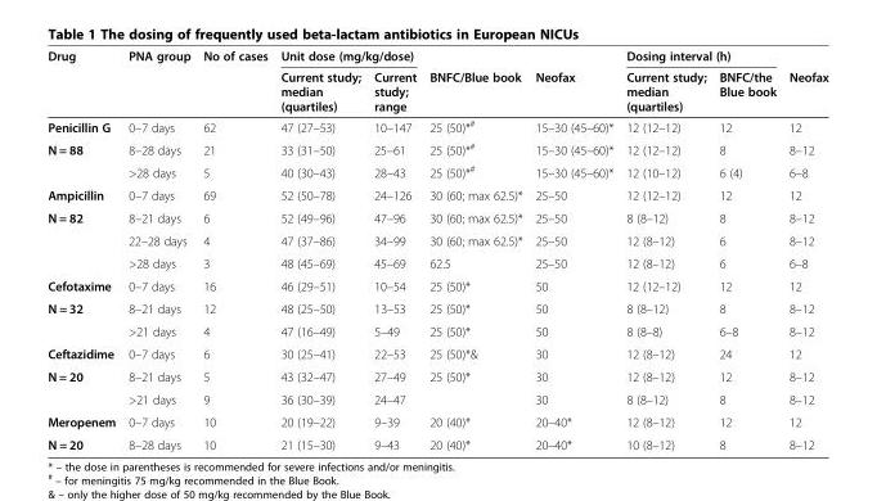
<table><thead><tr><td rowspan="2">Drug</td><td rowspan="2">PNA group</td><td rowspan="2">No of cases</td><td colspan="2">Unit dose (mg/kg/dose)</td><td rowspan="2">BNFC/Blue book</td><td rowspan="2">Neofax</td><td colspan="2">Dosing interval (h)</td><td rowspan="2">Neofax</td></tr><tr><td>Current study; median (quartiles)</td><td>Current study; range</td><td>Current study; median (quartiles)</td><td>BNFC/the Blue book</td></tr></thead><tbody><tr><td>Penicillin G</td><td>0–7 days</td><td>62</td><td>47 (27–53)</td><td>10–147</td><td>25 (50)*<sup>#</sup></td><td>15–30 (45–60)*</td><td>12 (12–12)</td><td>12</td><td>12</td></tr><tr><td rowspan="2">N = 88</td><td>8–28 days</td><td>21</td><td>33 (31–50)</td><td>25–61</td><td>25 (50)*<sup>#</sup></td><td>15–30 (45–60)*</td><td>12 (12–12)</td><td>8</td><td>8–12</td></tr><tr><td>&gt;28 days</td><td>5</td><td>40 (30–43)</td><td>28–43</td><td>25 (50)*<sup>#</sup></td><td>15–30 (45–60)*</td><td>12 (10–12)</td><td>6 (4)</td><td>6–8</td></tr><tr><td>Ampicillin</td><td>0–7 days</td><td>69</td><td>52 (50–78)</td><td>24–126</td><td>30 (60; max 62.5)*</td><td>25–50</td><td>12 (12–12)</td><td>12</td><td>12</td></tr><tr><td rowspan="3">N = 82</td><td>8–21 days</td><td>6</td><td>52 (49–96)</td><td>47–96</td><td>30 (60; max 62.5)*</td><td>25–50</td><td>8 (8–12)</td><td>8</td><td>8–12</td></tr><tr><td>22–28 days</td><td>4</td><td>47 (37–86)</td><td>34–99</td><td>30 (60; max 62.5)*</td><td>25–50</td><td>12 (8–12)</td><td>6</td><td>8–12</td></tr><tr><td>&gt;28 days</td><td>3</td><td>48 (45–69)</td><td>45–69</td><td>62.5</td><td>25–50</td><td>12 (8–12)</td><td>6</td><td>6–8</td></tr><tr><td>Cefotaxime</td><td>0–7 days</td><td>16</td><td>46 (29–51)</td><td>10–54</td><td>25 (50)*</td><td>50</td><td>12 (12–12)</td><td>12</td><td>12</td></tr><tr><td rowspan="2">N = 32</td><td>8–21 days</td><td>12</td><td>48 (25–50)</td><td>13–53</td><td>25 (50)*</td><td>50</td><td>8 (8–12)</td><td>8</td><td>8–12</td></tr><tr><td>&gt;21 days</td><td>4</td><td>47 (16–49)</td><td>5–49</td><td>25 (50)*</td><td>50</td><td>8 (8–8)</td><td>6–8</td><td>8–12</td></tr><tr><td>Ceftazidime</td><td>0–7 days</td><td>6</td><td>30 (25–41)</td><td>22–53</td><td>25 (50)*&amp;</td><td>30</td><td>12 (8–12)</td><td>24</td><td>12</td></tr><tr><td rowspan="2">N = 20</td><td>8–21 days</td><td>5</td><td>43 (32–47)</td><td>27–49</td><td>25 (50)*</td><td>30</td><td>12 (8–12)</td><td>12</td><td>8–12</td></tr><tr><td>&gt;21 days</td><td>9</td><td>36 (30–39)</td><td>24–47</td><td></td><td>30</td><td>8 (8–12)</td><td>8</td><td>8–12</td></tr><tr><td>Meropenem</td><td>0–7 days</td><td>10</td><td>20 (19–22)</td><td>9–39</td><td>20 (40)*</td><td>20–40*</td><td>12 (8–12)</td><td>12</td><td>12</td></tr><tr><td>N = 20</td><td>8–28 days</td><td>10</td><td>21 (15–30)</td><td>9–43</td><td>20 (40)*</td><td>20–40*</td><td>10 (8–12)</td><td>8</td><td>8–12</td></tr></tbody></table>